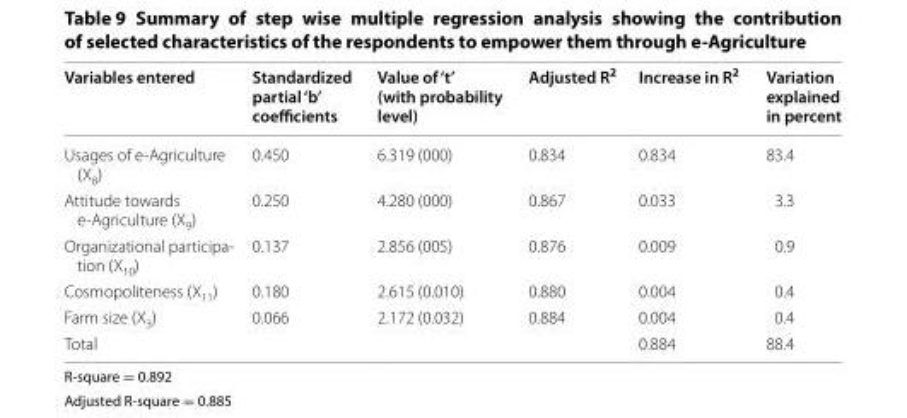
<table><thead><tr><td>Variables entered</td><td>Standardized partial ‘b’ coefficients</td><td>Value of ‘t’ (with probability level)</td><td>Adjusted R<sup>2</sup></td><td>Increase in R<sup>2</sup></td><td>Variation explained in percent</td></tr></thead><tbody><tr><td>Usages of e-Agriculture (X<sub>8</sub>)</td><td>0.450</td><td>6.319 (000)</td><td>0.834</td><td>0.834</td><td>83.4</td></tr><tr><td>Attitude towards e-Agriculture (X<sub>9</sub>)</td><td>0.250</td><td>4.280 (000)</td><td>0.867</td><td>0.033</td><td>3.3</td></tr><tr><td>Organizational participa- tion (X10)</td><td>0.137</td><td>2.856 (005)</td><td>0.876</td><td>0.009</td><td>0.9</td></tr><tr><td>Cosmopoliteness (X<sub>11</sub>)</td><td>0.180</td><td>2.615 (0.010)</td><td>0.880</td><td>0.004</td><td>0.4</td></tr><tr><td>Farm size (X<sub>3</sub>)</td><td>0.066</td><td>2.172 (0.032)</td><td>0.884</td><td>0.004</td><td>0.4</td></tr><tr><td colspan="4">Total</td><td>0.884</td><td>88.4</td></tr></tbody></table>